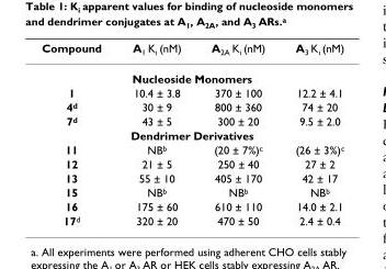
<table><thead><tr><td>Compound</td><td>A<sub>1</sub> K<sub>i</sub> (nM)</td><td>A<sub>2A</sub> K<sub>i</sub> (nM)</td><td>A<sub>3</sub> K<sub>i</sub> (nM)</td></tr></thead><tbody><tr><td colspan="4">Nucleoside Monomers</td></tr><tr><td>1</td><td>10.4 ± 3.8</td><td>370 ± 100</td><td>12.2 ± 4.1</td></tr><tr><td>4<sup>d</sup></td><td>30 ± 9</td><td>800 ± 360</td><td>74 ± 20</td></tr><tr><td>7<sup>d</sup></td><td>43 ± 5</td><td>300 ± 20</td><td>9.5 ± 2.0</td></tr><tr><td colspan="4">Dendrimer Derivatives</td></tr><tr><td>11</td><td>NB<sup>b</sup></td><td>(20 ± 7%)<sup>c</sup></td><td>(26 ± 3%)<sup>c</sup></td></tr><tr><td>12</td><td>21 ± 5</td><td>250 ± 40</td><td>27 ± 2</td></tr><tr><td>13</td><td>55 ± 10</td><td>405 ± 170</td><td>42 ± 17</td></tr><tr><td>15</td><td>NB<sup>b</sup></td><td>NB<sup>b</sup></td><td>NB<sup>b</sup></td></tr><tr><td>16</td><td>175 ± 60</td><td>610 ± 110</td><td>14.0 ± 2.1</td></tr><tr><td>17<sup>d</sup></td><td>320 ± 20</td><td>470 ± 50</td><td>2.4 ± 0.4</td></tr></tbody></table>